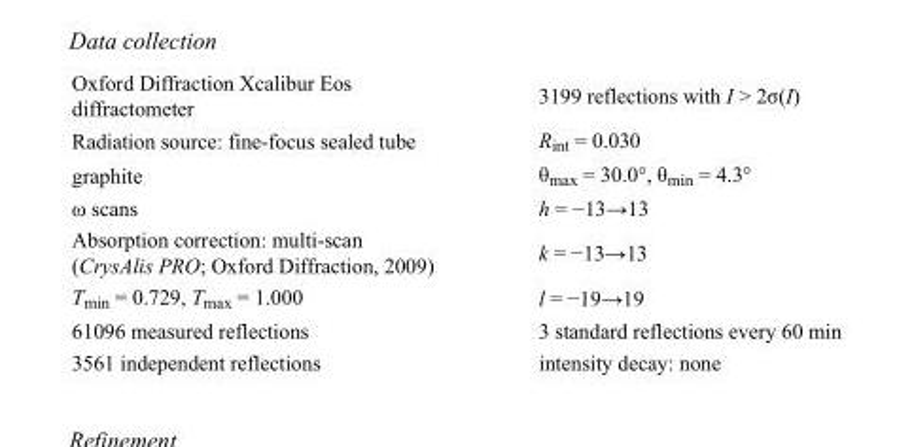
<table><tbody><tr><td>Oxford Diffraction Xcalibur Eos diffractometer</td><td>3199 reflections with I &gt; 2σ(I)</td></tr><tr><td>Radiation source: fine-focus sealed tube</td><td>R<sub>int</sub> = 0.030</td></tr><tr><td>graphite</td><td>θ<sub>max</sub> = 30.0°, θ<sub>min</sub> = 4.3°</td></tr><tr><td>ω scans</td><td>h = −13→13</td></tr><tr><td>Absorption correction: multi-scan (CrysAlis PRO; Oxford Diffraction, 2009)</td><td>k = −13→13</td></tr><tr><td>T<sub>min</sub> = 0.729, T<sub>max</sub> = 1.000</td><td>l = −19→19</td></tr><tr><td>61096 measured reflections</td><td>3 standard reflections every 60 min</td></tr><tr><td>3561 independent reflections</td><td>intensity decay: none</td></tr></tbody></table>